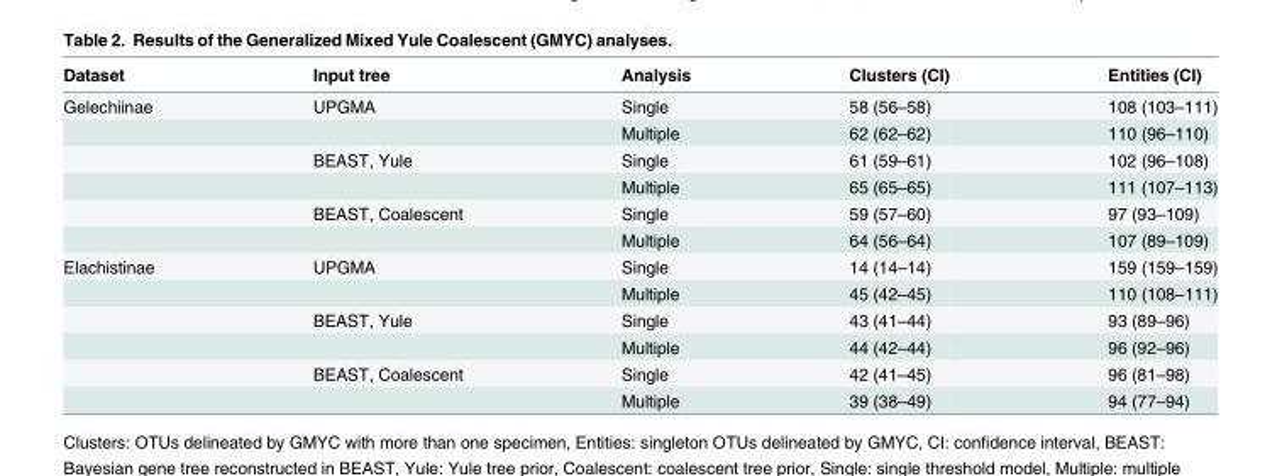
<table><thead><tr><td>Dataset</td><td>Input tree</td><td>Analysis</td><td>Clusters (CI)</td><td>Entities (CI)</td></tr></thead><tbody><tr><td rowspan="6">Gelechiinae</td><td>UPGMA</td><td>Single</td><td>58 (56–58)</td><td>108 (103–111)</td></tr><tr><td></td><td>Multiple</td><td>62 (62–62)</td><td>110 (96–110)</td></tr><tr><td>BEAST, Yule</td><td>Single</td><td>61 (59–61)</td><td>102 (96–108)</td></tr><tr><td></td><td>Multiple</td><td>65 (65–65)</td><td>111 (107–113)</td></tr><tr><td>BEAST, Coalescent</td><td>Single</td><td>59 (57–60)</td><td>97 (93–109)</td></tr><tr><td></td><td>Multiple</td><td>64 (56–64)</td><td>107 (89–109)</td></tr><tr><td rowspan="6">Elachistinae</td><td>UPGMA</td><td>Single</td><td>14 (14–14)</td><td>159 (159–159)</td></tr><tr><td></td><td>Multiple</td><td>45 (42–45)</td><td>110 (108–111)</td></tr><tr><td>BEAST, Yule</td><td>Single</td><td>43 (41–44)</td><td>93 (89–96)</td></tr><tr><td></td><td>Multiple</td><td>44 (42–44)</td><td>96 (92–96)</td></tr><tr><td>BEAST, Coalescent</td><td>Single</td><td>42 (41–45)</td><td>96 (81–98)</td></tr><tr><td></td><td>Multiple</td><td>39 (38–49)</td><td>94 (77–94)</td></tr></tbody></table>